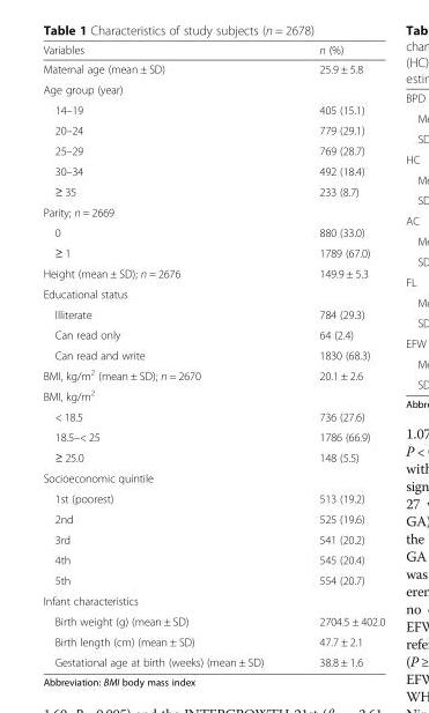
<table><thead><tr><td>Variables</td><td>n (%)</td></tr></thead><tbody><tr><td>Maternal age (mean ± SD)</td><td>25.9 ± 5.8</td></tr><tr><td colspan="2">Age group (year)</td></tr><tr><td>14–19</td><td>405 (15.1)</td></tr><tr><td>20–24</td><td>779 (29.1)</td></tr><tr><td>25–29</td><td>769 (28.7)</td></tr><tr><td>30–34</td><td>492 (18.4)</td></tr><tr><td>≥ 35</td><td>233 (8.7)</td></tr><tr><td colspan="2">Parity; n = 2669</td></tr><tr><td>0</td><td>880 (33.0)</td></tr><tr><td>≥ 1</td><td>1789 (67.0)</td></tr><tr><td>Height (mean ± SD); n = 2676</td><td>149.9 ± 5.3</td></tr><tr><td colspan="2">Educational status</td></tr><tr><td>Illiterate</td><td>784 (29.3)</td></tr><tr><td>Can read only</td><td>64 (2.4)</td></tr><tr><td>Can read and write</td><td>1830 (68.3)</td></tr><tr><td>BMI, kg/m<sup>2</sup> (mean ± SD); n = 2670</td><td>20.1 ± 2.6</td></tr><tr><td colspan="2">BMI, kg/m<sup>2</sup></td></tr><tr><td>&lt; 18.5</td><td>736 (27.6)</td></tr><tr><td>18.5–&lt; 25</td><td>1786 (66.9)</td></tr><tr><td>≥ 25.0</td><td>148 (5.5)</td></tr><tr><td colspan="2">Socioeconomic quintile</td></tr><tr><td>1st (poorest)</td><td>513 (19.2)</td></tr><tr><td>2nd</td><td>525 (19.6)</td></tr><tr><td>3rd</td><td>541 (20.2)</td></tr><tr><td>4th</td><td>545 (20.4)</td></tr><tr><td>5th</td><td>554 (20.7)</td></tr><tr><td colspan="2">Infant characteristics</td></tr><tr><td>Birth weight (g) (mean ± SD)</td><td>2704.5 ± 402.0</td></tr><tr><td>Birth length (cm) (mean ± SD)</td><td>47.7 ± 2.1</td></tr><tr><td>Gestational age at birth (weeks) (mean ± SD)</td><td>38.8 ± 1.6</td></tr></tbody></table>